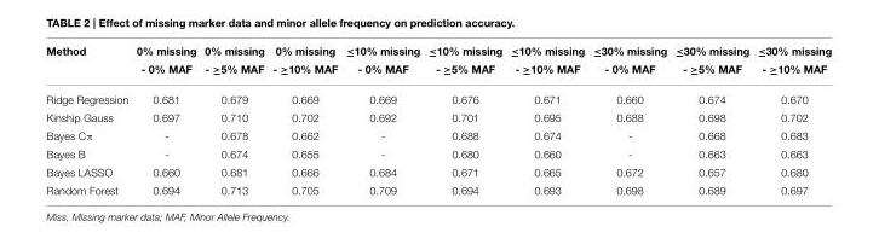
<table><thead><tr><td rowspan="2">Method</td><td rowspan="2">0% missing - 0% MAF</td><td rowspan="2">0% missing - ≥5% MAF</td><td rowspan="2">0% missing - ≥10% MAF</td><td rowspan="2">≤10% missing - 0% MAF</td><td rowspan="2">≤10% missing - ≥5% MAF</td><td rowspan="2">≤10% missing - ≥10% MAF</td><td rowspan="2">≤30% missing - 0% MAF</td><td rowspan="2">≤30% missing - ≥5% MAF</td><td rowspan="2">≤30% missing - ≥10% MAF</td></tr><tr></tr></thead><tbody><tr><td>Ridge Regression</td><td>0.681</td><td>0.679</td><td>0.669</td><td>0.669</td><td>0.676</td><td>0.671</td><td>0.660</td><td>0.674</td><td>0.670</td></tr><tr><td>Kinship Gauss</td><td>0.697</td><td>0.710</td><td>0.702</td><td>0.692</td><td>0.701</td><td>0.695</td><td>0.688</td><td>0.698</td><td>0.702</td></tr><tr><td>Bayes Cπ</td><td>-</td><td>0.678</td><td>0.662</td><td>-</td><td>0.688</td><td>0.674</td><td>-</td><td>0.668</td><td>0.683</td></tr><tr><td>Bayes B</td><td>-</td><td>0.674</td><td>0.655</td><td>-</td><td>0.680</td><td>0.660</td><td>-</td><td>0.663</td><td>0.663</td></tr><tr><td>Bayes LASSO</td><td>0.660</td><td>0.681</td><td>0.666</td><td>0.684</td><td>0.671</td><td>0.665</td><td>0.672</td><td>0.657</td><td>0.680</td></tr><tr><td>Random Forest</td><td>0.694</td><td>0.713</td><td>0.705</td><td>0.709</td><td>0.694</td><td>0.693</td><td>0.698</td><td>0.689</td><td>0.697</td></tr></tbody></table>